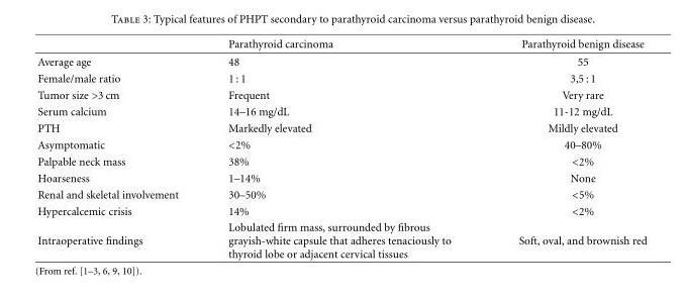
<table><thead><tr><td></td><td>Parathyroid carcinoma</td><td>Parathyroid benign disease</td></tr></thead><tbody><tr><td>Average age</td><td>48</td><td>55</td></tr><tr><td>Female/male ratio</td><td>1 : 1</td><td>3,5 : 1</td></tr><tr><td>Tumor size &gt;3 cm</td><td>Frequent</td><td>Very rare</td></tr><tr><td>Serum calcium</td><td>14–16 mg/dL</td><td>11-12 mg/dL</td></tr><tr><td>PTH</td><td>Markedly elevated</td><td>Mildly elevated</td></tr><tr><td>Asymptomatic</td><td>&lt;2%</td><td>40–80%</td></tr><tr><td>Palpable neck mass</td><td>38%</td><td>&lt;2%</td></tr><tr><td>Hoarseness</td><td>1–14%</td><td>None</td></tr><tr><td>Renal and skeletal involvement</td><td>30–50%</td><td>&lt;5%</td></tr><tr><td>Hypercalcemic crisis</td><td>14%</td><td>&lt;2%</td></tr><tr><td>Intraoperative findings</td><td>Lobulated firm mass, surrounded by fibrous grayish-white capsule that adheres tenaciously to thyroid lobe or adjacent cervical tissues</td><td>Soft, oval, and brownish red</td></tr></tbody></table>